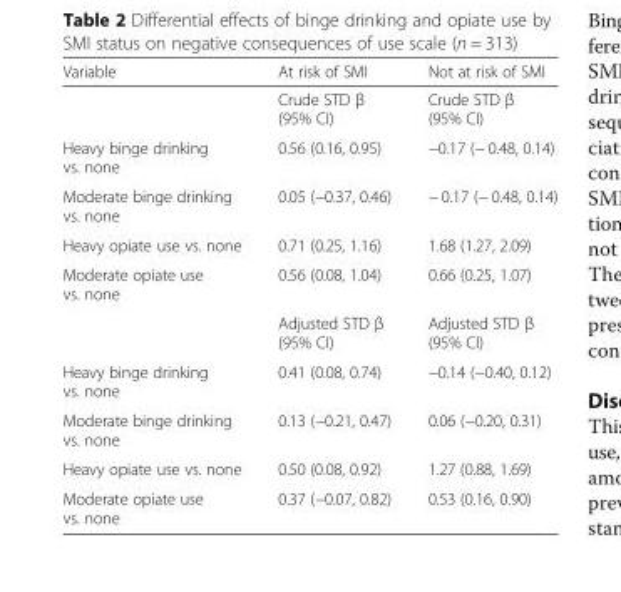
<table><thead><tr><td>Variable</td><td>At risk of SMI</td><td>Not at risk of SMI</td></tr></thead><tbody><tr><td></td><td>Crude STD β (95% CI)</td><td>Crude STD β (95% CI)</td></tr><tr><td>Heavy binge drinking vs. none</td><td>0.56 (0.16, 0.95)</td><td>−0.17 (− 0.48, 0.14)</td></tr><tr><td>Moderate binge drinking vs. none</td><td>0.05 (−0.37, 0.46)</td><td>− 0.17 (− 0.48, 0.14)</td></tr><tr><td>Heavy opiate use vs. none</td><td>0.71 (0.25, 1.16)</td><td>1.68 (1.27, 2.09)</td></tr><tr><td rowspan="2">Moderate opiate use vs. none</td><td>0.56 (0.08, 1.04)</td><td>0.66 (0.25, 1.07)</td></tr><tr><td>Adjusted STD β (95% CI)</td><td>Adjusted STD β (95% CI)</td></tr><tr><td>Heavy binge drinking vs. none</td><td>0.41 (0.08, 0.74)</td><td>−0.14 (−0.40, 0.12)</td></tr><tr><td>Moderate binge drinking vs. none</td><td>0.13 (−0.21, 0.47)</td><td>0.06 (−0.20, 0.31)</td></tr><tr><td>Heavy opiate use vs. none</td><td>0.50 (0.08, 0.92)</td><td>1.27 (0.88, 1.69)</td></tr><tr><td>Moderate opiate use vs. none</td><td>0.37 (−0.07, 0.82)</td><td>0.53 (0.16, 0.90)</td></tr></tbody></table>